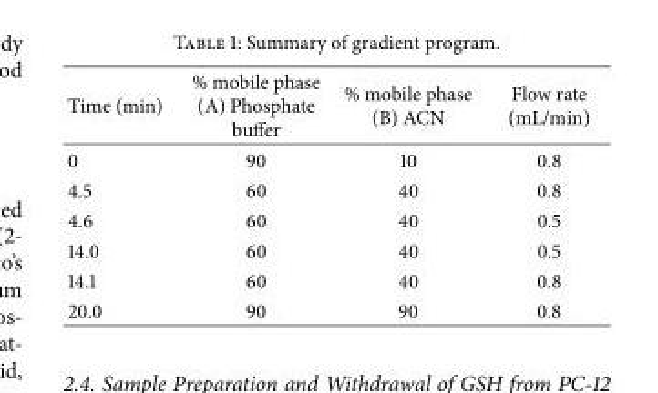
<table><thead><tr><td>Time (min)</td><td>% mobile phase (A) Phosphate buffer</td><td>% mobile phase (B) ACN</td><td>Flow rate (mL/min)</td></tr></thead><tbody><tr><td>0</td><td>90</td><td>10</td><td>0.8</td></tr><tr><td>4.5</td><td>60</td><td>40</td><td>0.8</td></tr><tr><td>4.6</td><td>60</td><td>40</td><td>0.5</td></tr><tr><td>14.0</td><td>60</td><td>40</td><td>0.5</td></tr><tr><td>14.1</td><td>60</td><td>40</td><td>0.8</td></tr><tr><td>20.0</td><td>90</td><td>90</td><td>0.8</td></tr></tbody></table>